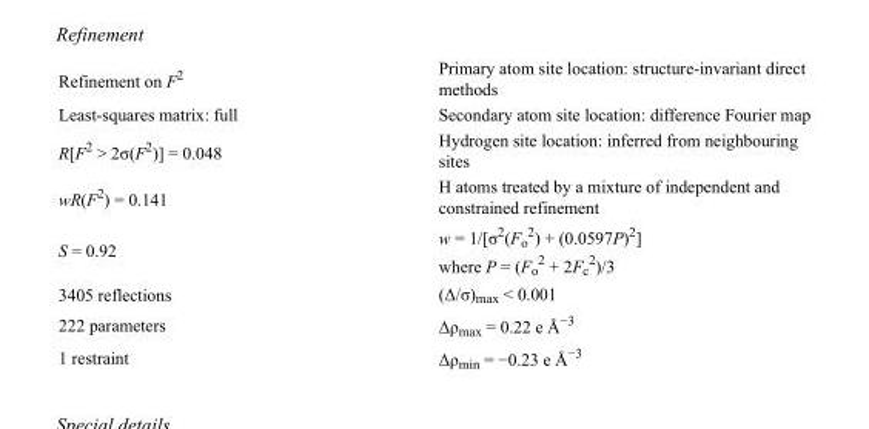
<table><tbody><tr><td>Refinement on F<sup>2</sup></td><td>Primary atom site location: structure-invariant direct methods</td></tr><tr><td>Least-squares matrix: full</td><td>Secondary atom site location: difference Fourier map</td></tr><tr><td>R[F<sup>2</sup> &gt; 2σ(F<sup>2</sup>)] = 0.048</td><td>Hydrogen site location: inferred from neighbouring sites</td></tr><tr><td>wR(F<sup>2</sup>) = 0.141</td><td>H atoms treated by a mixture of independent and constrained refinement</td></tr><tr><td>S = 0.92</td><td>w = 1/[σ<sup>2</sup>(F<sub>o</sub> <sup>2</sup>) + (0.0597P)<sup>2</sup>] where P = (F<sub>o</sub> <sup>2</sup> + 2F<sub>c</sub> <sup>2</sup>)/3</td></tr><tr><td>3405 reflections</td><td>(Δ/σ)<sub>max</sub> &lt; 0.001</td></tr><tr><td>222 parameters</td><td>Δρ<sub>max</sub> = 0.22 e Å<sup>−3</sup></td></tr><tr><td>1 restraint</td><td>Δρ<sub>min</sub> = −0.23 e Å<sup>−3</sup></td></tr></tbody></table>